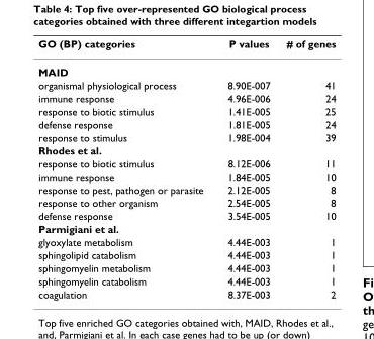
<table><thead><tr><td>GO (BP) categories</td><td>P values</td><td># of genes</td></tr></thead><tbody><tr><td colspan="3">MAID</td></tr><tr><td>organismal physiological process</td><td>8.90E-007</td><td>41</td></tr><tr><td>immune response</td><td>4.96E-006</td><td>24</td></tr><tr><td>response to biotic stimulus</td><td>1.41E-005</td><td>25</td></tr><tr><td>defense response</td><td>1.81E-005</td><td>24</td></tr><tr><td>response to stimulus</td><td>1.98E-004</td><td>39</td></tr><tr><td colspan="3">Rhodes et al.</td></tr><tr><td>response to biotic stimulus</td><td>8.12E-006</td><td>11</td></tr><tr><td>immune response</td><td>1.84E-005</td><td>10</td></tr><tr><td>response to pest, pathogen or parasite</td><td>2.12E-005</td><td>8</td></tr><tr><td>response to other organism</td><td>2.54E-005</td><td>8</td></tr><tr><td>defense response</td><td>3.54E-005</td><td>10</td></tr><tr><td colspan="3">Parmigiani et al.</td></tr><tr><td>glyoxylate metabolism</td><td>4.44E-003</td><td>1</td></tr><tr><td>sphingolipid catabolism</td><td>4.44E-003</td><td>1</td></tr><tr><td>sphingomyelin metabolism</td><td>4.44E-003</td><td>1</td></tr><tr><td>sphingomyelin catabolism</td><td>4.44E-003</td><td>1</td></tr><tr><td>coagulation</td><td>8.37E-003</td><td>2</td></tr></tbody></table>